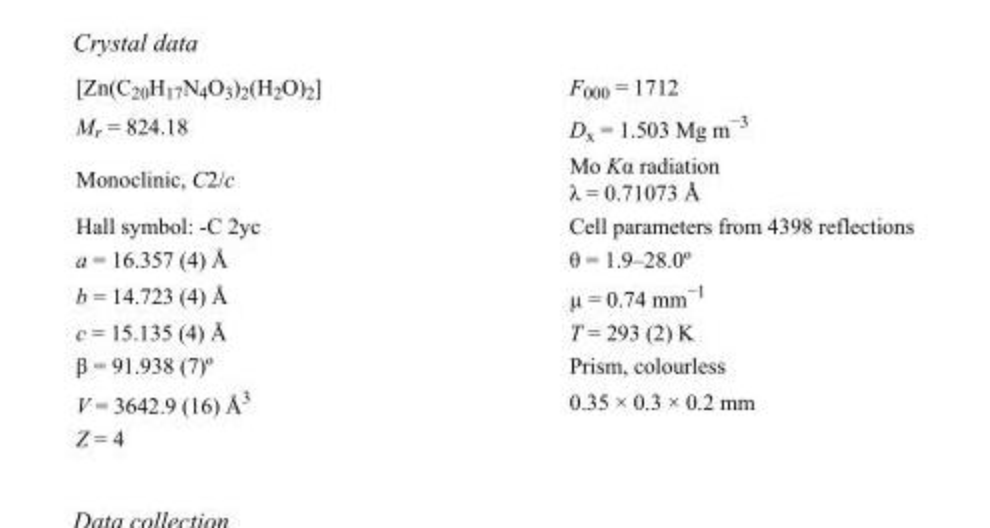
<table><tbody><tr><td>[Zn(C<sub>20</sub>H<sub>17</sub>N<sub>4</sub>O<sub>3</sub>)<sub>2</sub>(H<sub>2</sub>O)<sub>2</sub>]</td><td>F<sub>000</sub> = 1712</td></tr><tr><td>M<sub>r</sub> = 824.18</td><td>D<sub>x</sub> = 1.503 Mg m<sup>−3</sup></td></tr><tr><td>Monoclinic, C2/c</td><td>Mo Kα radiation λ = 0.71073 Å</td></tr><tr><td>Hall symbol: -C 2yc</td><td>Cell parameters from 4398 reflections</td></tr><tr><td>a = 16.357 (4) Å</td><td>θ = 1.9–28.0º</td></tr><tr><td>b = 14.723 (4) Å</td><td>µ = 0.74 mm<sup>−1</sup></td></tr><tr><td>c = 15.135 (4) Å</td><td>T = 293 (2) K</td></tr><tr><td>β = 91.938 (7)º</td><td>Prism, colourless</td></tr><tr><td>V = 3642.9 (16) Å<sup>3</sup></td><td>0.35 × 0.3 × 0.2 mm</td></tr><tr><td>Z = 4</td><td></td></tr></tbody></table>